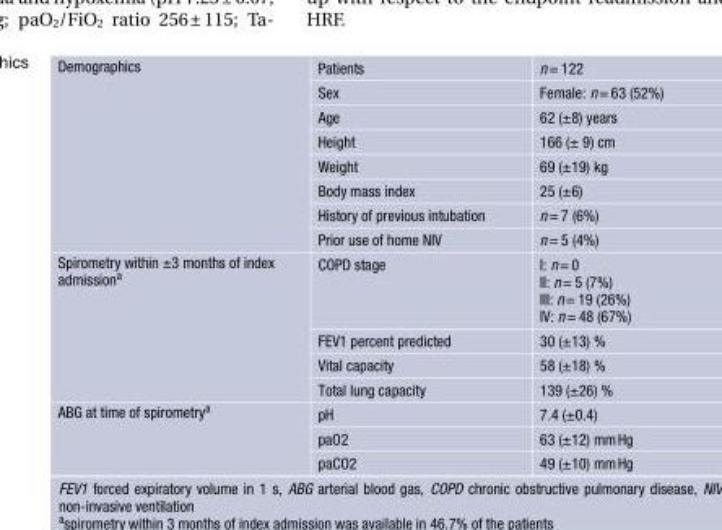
<table><tbody><tr><td rowspan="8">Demographics</td><td>Patients</td><td>n= 122</td></tr><tr><td>Sex</td><td>Female: n= 63 (52%)</td></tr><tr><td>Age</td><td>62 (±8) years</td></tr><tr><td>Height</td><td>166 (± 9) cm</td></tr><tr><td>Weight</td><td>69 (±19) kg</td></tr><tr><td>Body mass index</td><td>25 (±6)</td></tr><tr><td>History of previous intubation</td><td>n= 7 (6%)</td></tr><tr><td>Prior use of home NIV</td><td>n= 5 (4%)</td></tr><tr><td rowspan="4">Spirometry within ±3 months of index admission<sup>a</sup></td><td>COPD stage</td><td>I: n= 0 II: n= 5 (7%) III: n= 19 (26%) IV: n= 48 (67%)</td></tr><tr><td>FEV1 percent predicted</td><td>30 (±13) %</td></tr><tr><td>Vital capacity</td><td>58 (±18) %</td></tr><tr><td>Total lung capacity</td><td>139 (±26) %</td></tr><tr><td rowspan="3">ABG at time of spirometry<sup>a</sup></td><td>pH</td><td>7.4 (±0.4)</td></tr><tr><td>paO2</td><td>63 (±12) mmHg</td></tr><tr><td>paCO2</td><td>49 (±10) mmHg</td></tr></tbody></table>